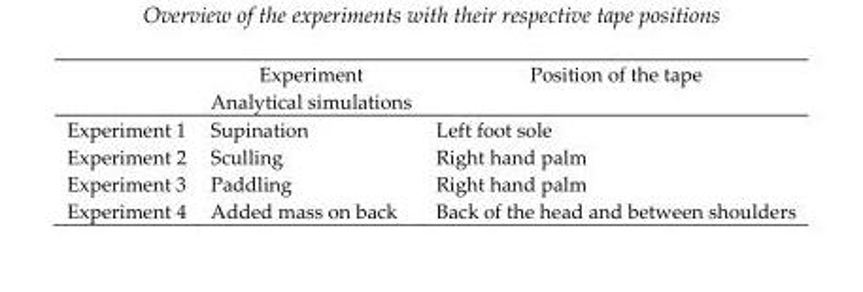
<table><thead><tr><td></td><td>Experiment Analytical simulations</td><td>Position of the tape</td></tr></thead><tbody><tr><td>Experiment 1</td><td>Supination</td><td>Left foot sole</td></tr><tr><td>Experiment 2</td><td>Sculling</td><td>Right hand palm</td></tr><tr><td>Experiment 3</td><td>Paddling</td><td>Right hand palm</td></tr><tr><td>Experiment 4</td><td>Added mass on back</td><td>Back of the head and between shoulders</td></tr></tbody></table>